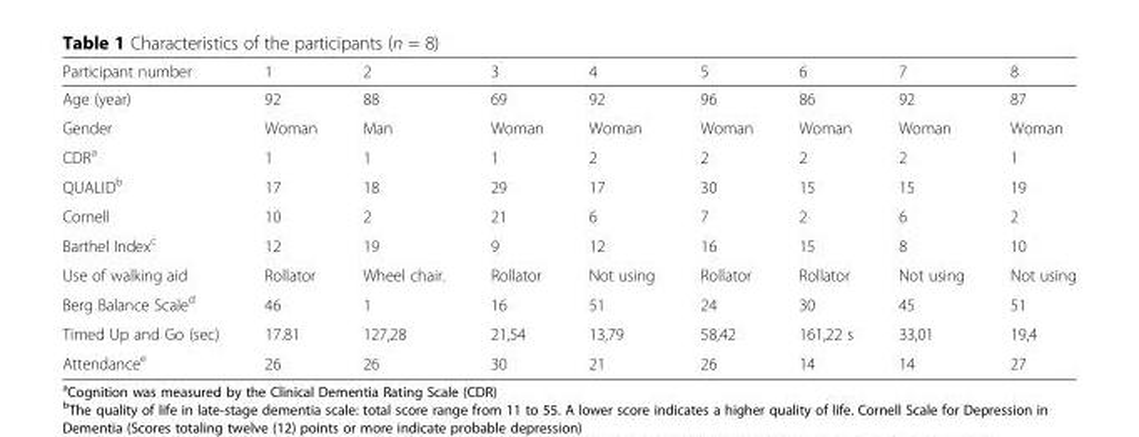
<table><thead><tr><td>Participant number</td><td>1</td><td>2</td><td>3</td><td>4</td><td>5</td><td>6</td><td>7</td><td>8</td></tr></thead><tbody><tr><td>Age (year)</td><td>92</td><td>88</td><td>69</td><td>92</td><td>96</td><td>86</td><td>92</td><td>87</td></tr><tr><td>Gender</td><td>Woman</td><td>Man</td><td>Woman</td><td>Woman</td><td>Woman</td><td>Woman</td><td>Woman</td><td>Woman</td></tr><tr><td>CDR<sup>a</sup></td><td>1</td><td>1</td><td>1</td><td>2</td><td>2</td><td>2</td><td>2</td><td>1</td></tr><tr><td>QUALID<sup>b</sup></td><td>17</td><td>18</td><td>29</td><td>17</td><td>30</td><td>15</td><td>15</td><td>19</td></tr><tr><td>Cornell</td><td>10</td><td>2</td><td>21</td><td>6</td><td>7</td><td>2</td><td>6</td><td>2</td></tr><tr><td>Barthel Index<sup>c</sup></td><td>12</td><td>19</td><td>9</td><td>12</td><td>16</td><td>15</td><td>8</td><td>10</td></tr><tr><td>Use of walking aid</td><td>Rollator</td><td>Wheel chair.</td><td>Rollator</td><td>Not using</td><td>Rollator</td><td>Rollator</td><td>Not using</td><td>Not using</td></tr><tr><td>Berg Balance Scale<sup>d</sup></td><td>46</td><td>1</td><td>16</td><td>51</td><td>24</td><td>30</td><td>45</td><td>51</td></tr><tr><td>Timed Up and Go (sec)</td><td>17.81</td><td>127,28</td><td>21,54</td><td>13,79</td><td>58,42</td><td>161,22 s</td><td>33,01</td><td>19,4</td></tr><tr><td>Attendance<sup>e</sup></td><td>26</td><td>26</td><td>30</td><td>21</td><td>26</td><td>14</td><td>14</td><td>27</td></tr></tbody></table>